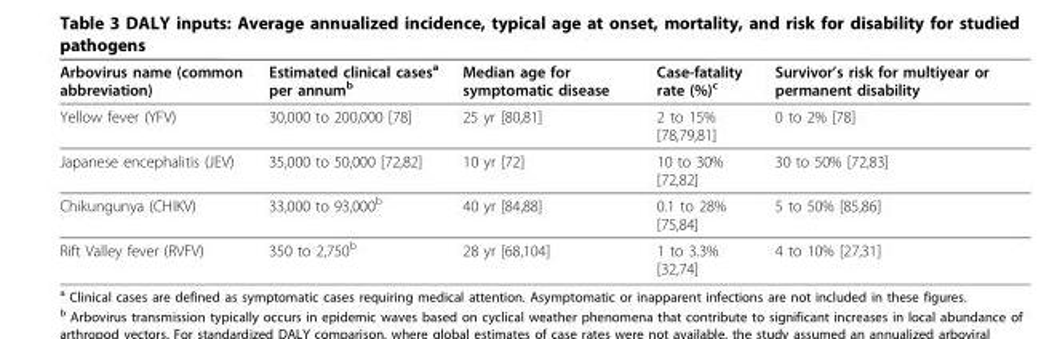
<table><thead><tr><td>Arbovirus name (common abbreviation)</td><td>Estimated clinical cases<sup>a</sup> per annum<sup>b</sup></td><td>Median age for symptomatic disease</td><td>Case-fatality rate (%)<sup>c</sup></td><td>Survivor’s risk for multiyear or permanent disability</td></tr></thead><tbody><tr><td>Yellow fever (YFV)</td><td>30,000 to 200,000 [78]</td><td>25 yr [80,81]</td><td>2 to 15% [78,79,81]</td><td>0 to 2% [78]</td></tr><tr><td>Japanese encephalitis (JEV)</td><td>35,000 to 50,000 [72,82]</td><td>10 yr [72]</td><td>10 to 30% [72,82]</td><td>30 to 50% [72,83]</td></tr><tr><td>Chikungunya (CHIKV)</td><td>33,000 to 93,000<sup>b</sup></td><td>40 yr [84,88]</td><td>0.1 to 28% [75,84]</td><td>5 to 50% [85,86]</td></tr><tr><td>Rift Valley fever (RVFV)</td><td>350 to 2,750<sup>b</sup></td><td>28 yr [68,104]</td><td>1 to 3.3% [32,74]</td><td>4 to 10% [27,31]</td></tr></tbody></table>